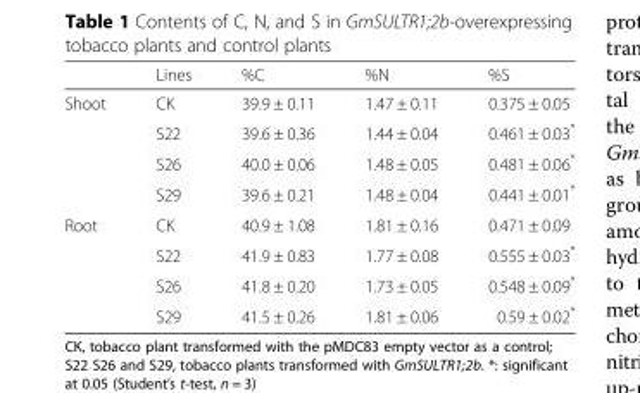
<table><thead><tr><td></td><td>Lines</td><td>%C</td><td>%N</td><td>%S</td></tr></thead><tbody><tr><td rowspan="4">Shoot</td><td>CK</td><td>39.9 ± 0.11</td><td>1.47 ± 0.11</td><td>0.375 ± 0.05</td></tr><tr><td>S22</td><td>39.6 ± 0.36</td><td>1.44 ± 0.04</td><td>0.461 ± 0.03*</td></tr><tr><td>S26</td><td>40.0 ± 0.06</td><td>1.48 ± 0.05</td><td>0.481 ± 0.06*</td></tr><tr><td>S29</td><td>39.6 ± 0.21</td><td>1.48 ± 0.04</td><td>0.441 ± 0.01*</td></tr><tr><td rowspan="4">Root</td><td>CK</td><td>40.9 ± 1.08</td><td>1.81 ± 0.16</td><td>0.471 ± 0.09</td></tr><tr><td>S22</td><td>41.9 ± 0.83</td><td>1.77 ± 0.08</td><td>0.555 ± 0.03*</td></tr><tr><td>S26</td><td>41.8 ± 0.20</td><td>1.73 ± 0.05</td><td>0.548 ± 0.09*</td></tr><tr><td>S29</td><td>41.5 ± 0.26</td><td>1.81 ± 0.06</td><td>0.59 ± 0.02*</td></tr></tbody></table>